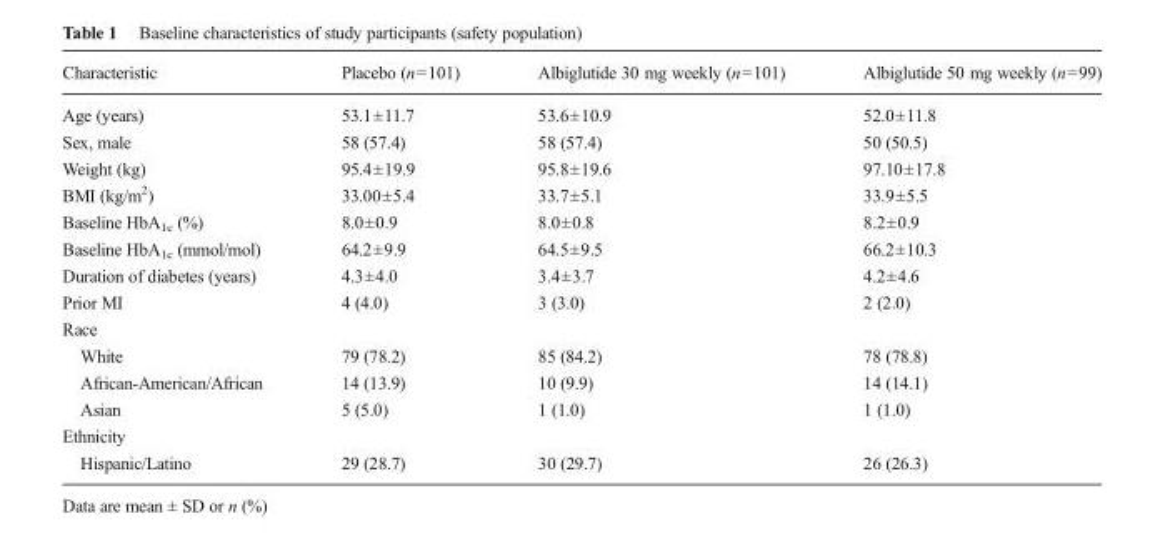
<table><thead><tr><td>Characteristic</td><td>Placebo (n=101)</td><td>Albiglutide 30 mg weekly (n=101)</td><td>Albiglutide 50 mg weekly (n=99)</td></tr></thead><tbody><tr><td>Age (years)</td><td>53.1±11.7</td><td>53.6±10.9</td><td>52.0±11.8</td></tr><tr><td>Sex, male</td><td>58 (57.4)</td><td>58 (57.4)</td><td>50 (50.5)</td></tr><tr><td>Weight (kg)</td><td>95.4±19.9</td><td>95.8±19.6</td><td>97.10±17.8</td></tr><tr><td>BMI (kg/m<sup>2</sup>)</td><td>33.00±5.4</td><td>33.7±5.1</td><td>33.9±5.5</td></tr><tr><td>Baseline HbA<sub>1c</sub> (%)</td><td>8.0±0.9</td><td>8.0±0.8</td><td>8.2±0.9</td></tr><tr><td>Baseline HbA<sub>1c</sub> (mmol/mol)</td><td>64.2±9.9</td><td>64.5±9.5</td><td>66.2±10.3</td></tr><tr><td>Duration of diabetes (years)</td><td>4.3±4.0</td><td>3.4±3.7</td><td>4.2±4.6</td></tr><tr><td>Prior MI</td><td>4 (4.0)</td><td>3 (3.0)</td><td>2 (2.0)</td></tr><tr><td colspan="4">Race</td></tr><tr><td>White</td><td>79 (78.2)</td><td>85 (84.2)</td><td>78 (78.8)</td></tr><tr><td>African-American/African</td><td>14 (13.9)</td><td>10 (9.9)</td><td>14 (14.1)</td></tr><tr><td>Asian</td><td>5 (5.0)</td><td>1 (1.0)</td><td>1 (1.0)</td></tr><tr><td colspan="4">Ethnicity</td></tr><tr><td>Hispanic/Latino</td><td>29 (28.7)</td><td>30 (29.7)</td><td>26 (26.3)</td></tr></tbody></table>